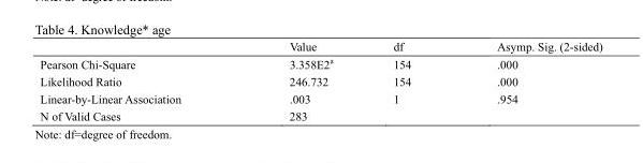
<table><thead><tr><td></td><td>Value</td><td>df</td><td>Asymp. Sig. (2-sided)</td></tr></thead><tbody><tr><td>Pearson Chi-Square</td><td>3.358E2<sup>a</sup></td><td>154</td><td>.000</td></tr><tr><td>Likelihood Ratio</td><td>246.732</td><td>154</td><td>.000</td></tr><tr><td>Linear-by-Linear Association</td><td>.003</td><td>1</td><td>.954</td></tr><tr><td>N of Valid Cases</td><td>283</td><td></td><td></td></tr></tbody></table>